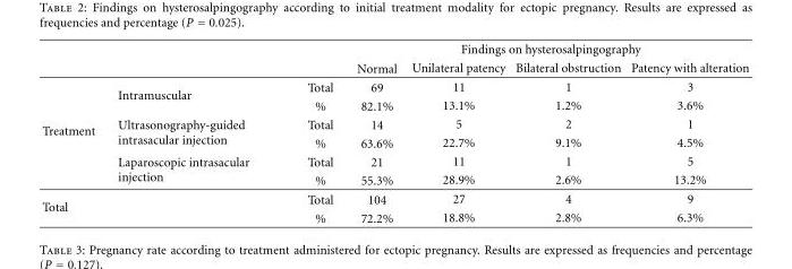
<table><thead><tr><td rowspan="2"></td><td rowspan="2"></td><td rowspan="2"></td><td colspan="4">Findings on hysterosalpingography</td></tr><tr><td>Normal</td><td>Unilateral patency</td><td>Bilateral obstruction</td><td>Patency with alteration</td></tr></thead><tbody><tr><td rowspan="6">Treatment</td><td rowspan="2">Intramuscular</td><td>Total</td><td>69</td><td>11</td><td>1</td><td>3</td></tr><tr><td>%</td><td>82.1%</td><td>13.1%</td><td>1.2%</td><td>3.6%</td></tr><tr><td rowspan="2">Ultrasonography-guided intrasacular injection</td><td>Total</td><td>14</td><td>5</td><td>2</td><td>1</td></tr><tr><td>%</td><td>63.6%</td><td>22.7%</td><td>9.1%</td><td>4.5%</td></tr><tr><td rowspan="2">Laparoscopic intrasacular injection</td><td>Total</td><td>21</td><td>11</td><td>1</td><td>5</td></tr><tr><td>%</td><td>55.3%</td><td>28.9%</td><td>2.6%</td><td>13.2%</td></tr><tr><td rowspan="2">Total</td><td rowspan="2"></td><td>Total</td><td>104</td><td>27</td><td>4</td><td>9</td></tr><tr><td>%</td><td>72.2%</td><td>18.8%</td><td>2.8%</td><td>6.3%</td></tr></tbody></table>